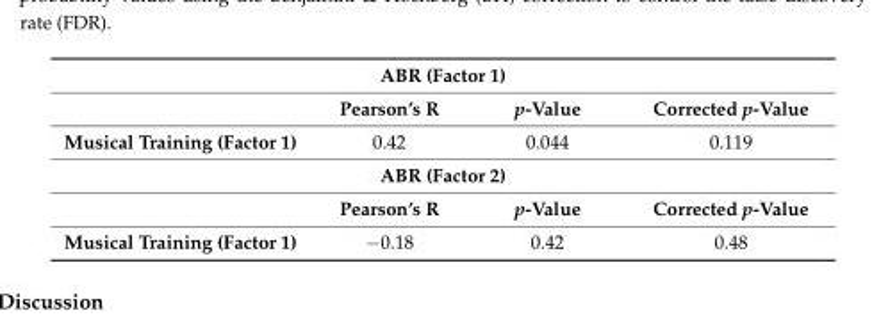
<table><thead><tr><td colspan="4">ABR (Factor 1)</td></tr><tr><td></td><td>Pearson’s R</td><td>p-Value</td><td>Corrected p-Value</td></tr></thead><tbody><tr><td>Musical Training (Factor 1)</td><td>0.42</td><td>0.044</td><td>0.119</td></tr><tr><td colspan="4">ABR (Factor 2)</td></tr><tr><td></td><td>Pearson’s R</td><td>p-Value</td><td>Corrected p-Value</td></tr><tr><td>Musical Training (Factor 1)</td><td>−0.18</td><td>0.42</td><td>0.48</td></tr></tbody></table>